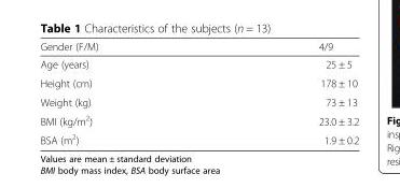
<table><thead><tr><td>Gender (F/M)</td><td>4/9</td></tr></thead><tbody><tr><td>Age (years)</td><td>25 ± 5</td></tr><tr><td>Height (cm)</td><td>178 ± 10</td></tr><tr><td>Weight (kg)</td><td>73 ± 13</td></tr><tr><td>BMI (kg/m<sup>2</sup>)</td><td>23.0 ± 3.2</td></tr><tr><td>BSA (m<sup>2</sup>)</td><td>1.9 ± 0.2</td></tr></tbody></table>